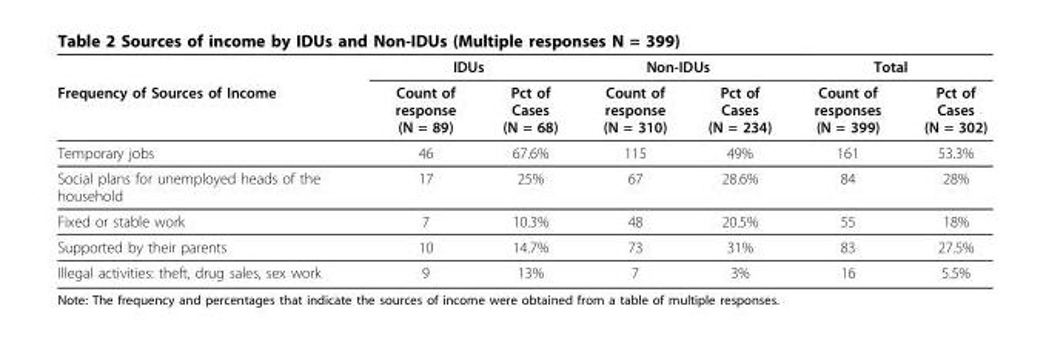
<table><thead><tr><td rowspan="2">Frequency of Sources of Income</td><td colspan="2">IDUs</td><td colspan="2">Non-IDUs</td><td colspan="2">Total</td></tr><tr><td>Count of response (N = 89)</td><td>Pct of Cases (N = 68)</td><td>Count of response (N = 310)</td><td>Pct of Cases (N = 234)</td><td>Count of responses (N = 399)</td><td>Pct of Cases (N = 302)</td></tr></thead><tbody><tr><td>Temporary jobs</td><td>46</td><td>67.6%</td><td>115</td><td>49%</td><td>161</td><td>53.3%</td></tr><tr><td>Social plans for unemployed heads of the household</td><td>17</td><td>25%</td><td>67</td><td>28.6%</td><td>84</td><td>28%</td></tr><tr><td>Fixed or stable work</td><td>7</td><td>10.3%</td><td>48</td><td>20.5%</td><td>55</td><td>18%</td></tr><tr><td>Supported by their parents</td><td>10</td><td>14.7%</td><td>73</td><td>31%</td><td>83</td><td>27.5%</td></tr><tr><td>Illegal activities: theft, drug sales, sex work</td><td>9</td><td>13%</td><td>7</td><td>3%</td><td>16</td><td>5.5%</td></tr></tbody></table>